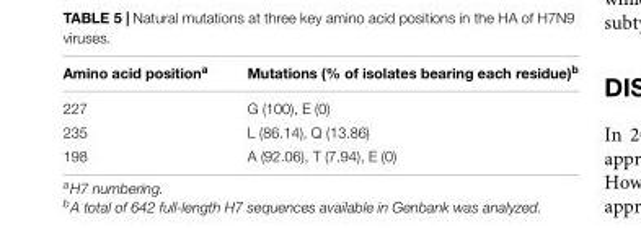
<table><thead><tr><td>Amino acid position<sup>a</sup></td><td>Mutations (% of isolates bearing each residue)<sup>b</sup></td></tr></thead><tbody><tr><td>227</td><td>G (100), E (0)</td></tr><tr><td>235</td><td>L (86.14), Q (13.86)</td></tr><tr><td>198</td><td>A (92.06), T (7.94), E (0)</td></tr></tbody></table>